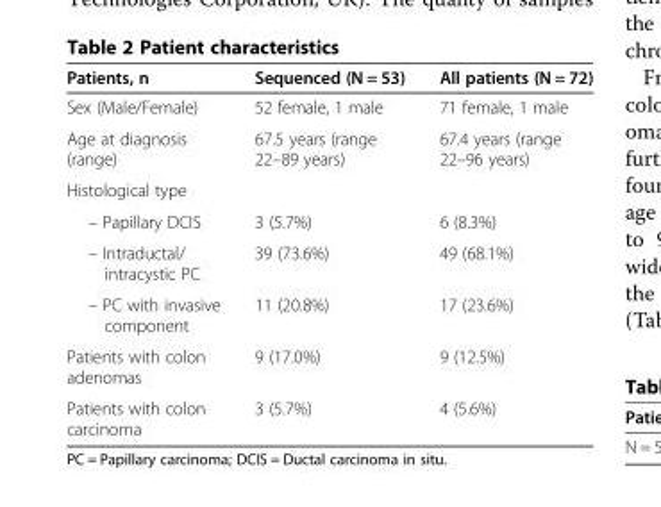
<table><thead><tr><td>Patients, n</td><td>Sequenced (N = 53)</td><td>All patients (N = 72)</td></tr></thead><tbody><tr><td>Sex (Male/Female)</td><td>52 female, 1 male</td><td>71 female, 1 male</td></tr><tr><td>Age at diagnosis (range)</td><td>67.5 years (range 22–89 years)</td><td>67.4 years (range 22–96 years)</td></tr><tr><td colspan="3">Histological type</td></tr><tr><td>– Papillary DCIS</td><td>3 (5.7%)</td><td>6 (8.3%)</td></tr><tr><td>– Intraductal/ intracystic PC</td><td>39 (73.6%)</td><td>49 (68.1%)</td></tr><tr><td>– PC with invasive component</td><td>11 (20.8%)</td><td>17 (23.6%)</td></tr><tr><td>Patients with colon adenomas</td><td>9 (17.0%)</td><td>9 (12.5%)</td></tr><tr><td>Patients with colon carcinoma</td><td>3 (5.7%)</td><td>4 (5.6%)</td></tr></tbody></table>